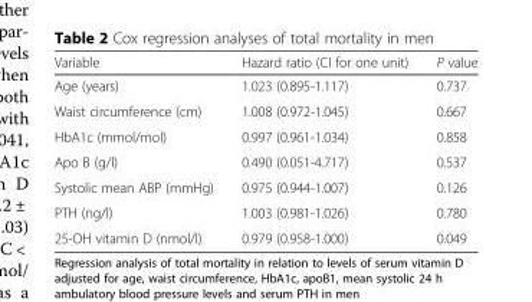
<table><thead><tr><td>Variable</td><td>Hazard ratio (CI for one unit)</td><td>P value</td></tr></thead><tbody><tr><td>Age (years)</td><td>1.023 (0.895-1.117)</td><td>0.737</td></tr><tr><td>Waist circumference (cm)</td><td>1.008 (0.972-1.045)</td><td>0.667</td></tr><tr><td>HbA1c (mmol/mol)</td><td>0.997 (0.961-1.034)</td><td>0.858</td></tr><tr><td>Apo B (g/l)</td><td>0.490 (0.051-4.717)</td><td>0.537</td></tr><tr><td>Systolic mean ABP (mmHg)</td><td>0.975 (0.944-1.007)</td><td>0.126</td></tr><tr><td>PTH (ng/l)</td><td>1.003 (0.981-1.026)</td><td>0.780</td></tr><tr><td>25-OH vitamin D (nmol/l)</td><td>0.979 (0.958-1.000)</td><td>0.049</td></tr></tbody></table>